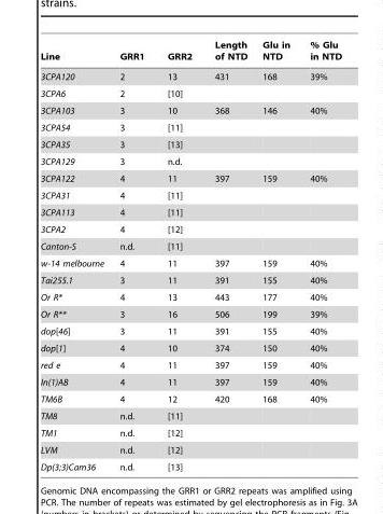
<table><thead><tr><td>Line</td><td>GRR1</td><td>GRR2</td><td>Length of NTD</td><td>Glu in NTD</td><td>% Glu in NTD</td></tr></thead><tbody><tr><td>3CPA120</td><td>2</td><td>13</td><td>431</td><td>168</td><td>39%</td></tr><tr><td>3CPA6</td><td>2</td><td>[10]</td><td></td><td></td><td></td></tr><tr><td>3CPA103</td><td>3</td><td>10</td><td>368</td><td>146</td><td>40%</td></tr><tr><td>3CPA54</td><td>3</td><td>[11]</td><td></td><td></td><td></td></tr><tr><td>3CPA35</td><td>3</td><td>[13]</td><td></td><td></td><td></td></tr><tr><td>3CPA129</td><td>3</td><td>n.d.</td><td></td><td></td><td></td></tr><tr><td>3CPA122</td><td>4</td><td>11</td><td>397</td><td>159</td><td>40%</td></tr><tr><td>3CPA31</td><td>4</td><td>[11]</td><td></td><td></td><td></td></tr><tr><td>3CPA113</td><td>4</td><td>[11]</td><td></td><td></td><td></td></tr><tr><td>3CPA2</td><td>4</td><td>[12]</td><td></td><td></td><td></td></tr><tr><td>Canton-S</td><td>n.d.</td><td>[11]</td><td></td><td></td><td></td></tr><tr><td>w-14 melbourne</td><td>4</td><td>11</td><td>397</td><td>159</td><td>40%</td></tr><tr><td>Tai255.1</td><td>3</td><td>11</td><td>391</td><td>155</td><td>40%</td></tr><tr><td>Or R*</td><td>4</td><td>13</td><td>443</td><td>177</td><td>40%</td></tr><tr><td>Or R**</td><td>3</td><td>16</td><td>506</td><td>199</td><td>39%</td></tr><tr><td>dop[46]</td><td>3</td><td>11</td><td>391</td><td>155</td><td>40%</td></tr><tr><td>dop[1]</td><td>4</td><td>10</td><td>374</td><td>150</td><td>40%</td></tr><tr><td>red e</td><td>4</td><td>11</td><td>397</td><td>159</td><td>40%</td></tr><tr><td>In(1)AB</td><td>4</td><td>11</td><td>397</td><td>159</td><td>40%</td></tr><tr><td>TM6B</td><td>4</td><td>12</td><td>420</td><td>168</td><td>40%</td></tr><tr><td>TM8</td><td>n.d.</td><td>[11]</td><td></td><td></td><td></td></tr><tr><td>TM1</td><td>n.d.</td><td>[12]</td><td></td><td></td><td></td></tr><tr><td>LVM</td><td>n.d.</td><td>[12]</td><td></td><td></td><td></td></tr><tr><td>Dp(3;3)Cam36</td><td>n.d.</td><td>[13]</td><td></td><td></td><td></td></tr></tbody></table>